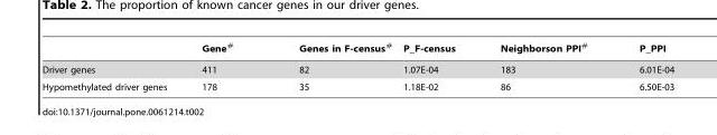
<table><thead><tr><td></td><td>Gene<sup>#</sup></td><td>Genes in F-census<sup>#</sup></td><td>P_F-census</td><td>Neighborson PPI<sup>#</sup></td><td>P_PPI</td></tr></thead><tbody><tr><td>Driver genes</td><td>411</td><td>82</td><td>1.07E-04</td><td>183</td><td>6.01E-04</td></tr><tr><td>Hypomethylated driver genes</td><td>178</td><td>35</td><td>1.18E-02</td><td>86</td><td>6.50E-03</td></tr></tbody></table>